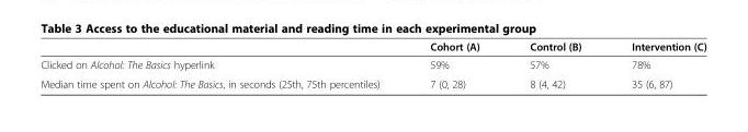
<table><thead><tr><td></td><td>Cohort (A)</td><td>Control (B)</td><td>Intervention (C)</td></tr></thead><tbody><tr><td>Clicked on Alcohol: The Basics hyperlink</td><td>59%</td><td>57%</td><td>78%</td></tr><tr><td>Median time spent on Alcohol: The Basics, in seconds (25th, 75th percentiles)</td><td>7 (0, 28)</td><td>8 (4, 42)</td><td>35 (6, 87)</td></tr></tbody></table>